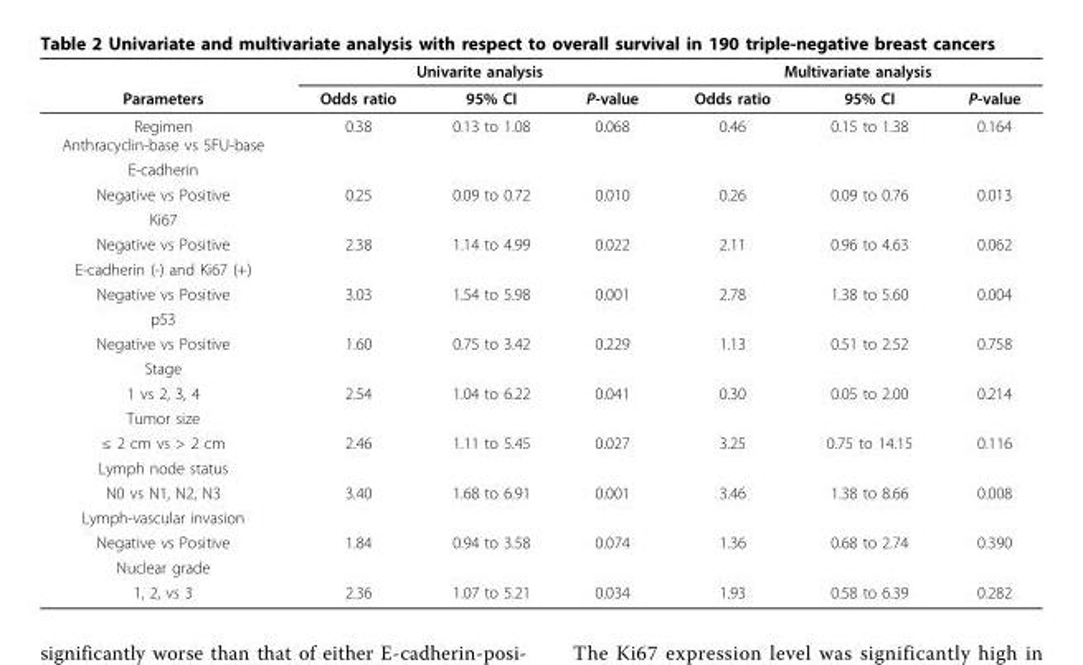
<table><thead><tr><td rowspan="2">Parameters</td><td colspan="3">Univarite analysis</td><td colspan="3">Multivariate analysis</td></tr><tr><td>Odds ratio</td><td>95% CI</td><td>P-value</td><td>Odds ratio</td><td>95% CI</td><td>P-value</td></tr></thead><tbody><tr><td>Regimen Anthracyclin-base vs 5FU-base</td><td>0.38</td><td>0.13 to 1.08</td><td>0.068</td><td>0.46</td><td>0.15 to 1.38</td><td>0.164</td></tr><tr><td colspan="7">E-cadherin</td></tr><tr><td>Negative vs Positive</td><td>0.25</td><td>0.09 to 0.72</td><td>0.010</td><td>0.26</td><td>0.09 to 0.76</td><td>0.013</td></tr><tr><td colspan="7">Ki67</td></tr><tr><td>Negative vs Positive</td><td>2.38</td><td>1.14 to 4.99</td><td>0.022</td><td>2.11</td><td>0.96 to 4.63</td><td>0.062</td></tr><tr><td colspan="7">E-cadherin (-) and Ki67 (+)</td></tr><tr><td>Negative vs Positive</td><td>3.03</td><td>1.54 to 5.98</td><td>0.001</td><td>2.78</td><td>1.38 to 5.60</td><td>0.004</td></tr><tr><td colspan="7">p53</td></tr><tr><td>Negative vs Positive</td><td>1.60</td><td>0.75 to 3.42</td><td>0.229</td><td>1.13</td><td>0.51 to 2.52</td><td>0.758</td></tr><tr><td colspan="7">Stage</td></tr><tr><td>1 vs 2, 3, 4</td><td>2.54</td><td>1.04 to 6.22</td><td>0.041</td><td>0.30</td><td>0.05 to 2.00</td><td>0.214</td></tr><tr><td colspan="7">Tumor size</td></tr><tr><td>≤ 2 cm vs &gt; 2 cm</td><td>2.46</td><td>1.11 to 5.45</td><td>0.027</td><td>3.25</td><td>0.75 to 14.15</td><td>0.116</td></tr><tr><td colspan="7">Lymph node status</td></tr><tr><td>N0 vs N1, N2, N3</td><td>3.40</td><td>1.68 to 6.91</td><td>0.001</td><td>3.46</td><td>1.38 to 8.66</td><td>0.008</td></tr><tr><td colspan="7">Lymph-vascular invasion</td></tr><tr><td>Negative vs Positive</td><td>1.84</td><td>0.94 to 3.58</td><td>0.074</td><td>1.36</td><td>0.68 to 2.74</td><td>0.390</td></tr><tr><td colspan="7">Nuclear grade</td></tr><tr><td>1, 2, vs 3</td><td>2.36</td><td>1.07 to 5.21</td><td>0.034</td><td>1.93</td><td>0.58 to 6.39</td><td>0.282</td></tr></tbody></table>